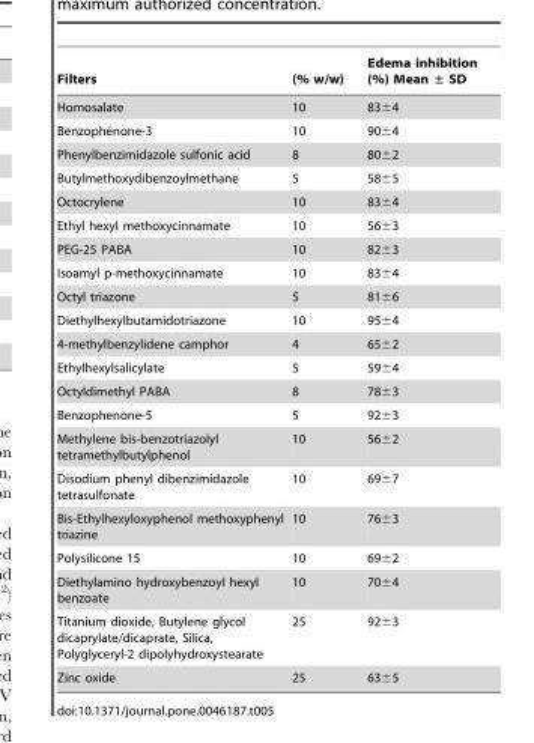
<table><thead><tr><td>Filters</td><td>(% w/w)</td><td>Edema inhibition (%) Mean ± SD</td></tr></thead><tbody><tr><td>Homosalate</td><td>10</td><td>83±4</td></tr><tr><td>Benzophe´none-3</td><td>10</td><td>90±4</td></tr><tr><td>Phenylbenzimidazole sulfonic acid</td><td>8</td><td>80±2</td></tr><tr><td>Butylmethoxydibenzoylmethane</td><td>5</td><td>58±5</td></tr><tr><td>Octocrylene</td><td>10</td><td>83±4</td></tr><tr><td>Ethyl hexyl methoxycinnamate</td><td>10</td><td>56±3</td></tr><tr><td>PEG-25 PABA</td><td>10</td><td>82±3</td></tr><tr><td>Isoamyl p-methoxycinnamate</td><td>10</td><td>83±4</td></tr><tr><td>Octyl triazone</td><td>5</td><td>81±6</td></tr><tr><td>Diethylhexylbutamidotriazone</td><td>10</td><td>95±4</td></tr><tr><td>4-methylbenzylidene camphor</td><td>4</td><td>65±2</td></tr><tr><td>Ethylhexylsalicylate</td><td>5</td><td>59±4</td></tr><tr><td>Octyldimethyl PABA</td><td>8</td><td>78±3</td></tr><tr><td>Benzophenone-5</td><td>5</td><td>92±3</td></tr><tr><td>Methylene bis-benzotriazolyl tetramethylbutylphenol</td><td>10</td><td>56±2</td></tr><tr><td>Disodium phenyl dibenzimidazole tetrasulfonate</td><td>10</td><td>69±7</td></tr><tr><td>Bis-Ethylhexyloxyphenol methoxyphenyl triazine</td><td>10</td><td>76±3</td></tr><tr><td>Polysilicone 15</td><td>10</td><td>69±2</td></tr><tr><td>Diethylamino hydroxybenzoyl hexyl benzoate</td><td>10</td><td>70±4</td></tr><tr><td>Titanium dioxide, Butylene glycol dicaprylate/dicaprate, Silica, Polyglyceryl-2 dipolyhydroxystearate</td><td>25</td><td>92±3</td></tr><tr><td>Zinc oxide</td><td>25</td><td>63±5</td></tr></tbody></table>